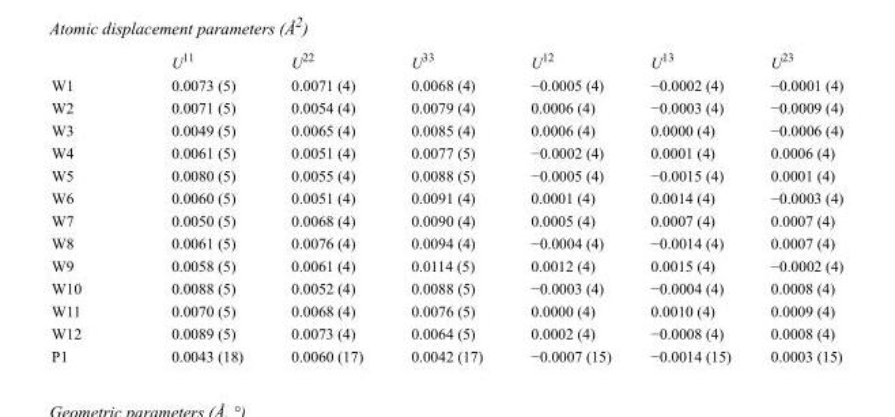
<table><thead><tr><td></td><td>U<sup>11</sup></td><td>U<sup>22</sup></td><td>U<sup>33</sup></td><td>U<sup>12</sup></td><td>U<sup>13</sup></td><td>U<sup>23</sup></td></tr></thead><tbody><tr><td>W1</td><td>0.0073 (5)</td><td>0.0071 (4)</td><td>0.0068 (4)</td><td>−0.0005 (4)</td><td>−0.0002 (4)</td><td>−0.0001 (4)</td></tr><tr><td>W2</td><td>0.0071 (5)</td><td>0.0054 (4)</td><td>0.0079 (4)</td><td>0.0006 (4)</td><td>−0.0003 (4)</td><td>−0.0009 (4)</td></tr><tr><td>W3</td><td>0.0049 (5)</td><td>0.0065 (4)</td><td>0.0085 (4)</td><td>0.0006 (4)</td><td>0.0000 (4)</td><td>−0.0006 (4)</td></tr><tr><td>W4</td><td>0.0061 (5)</td><td>0.0051 (4)</td><td>0.0077 (5)</td><td>−0.0002 (4)</td><td>0.0001 (4)</td><td>0.0006 (4)</td></tr><tr><td>W5</td><td>0.0080 (5)</td><td>0.0055 (4)</td><td>0.0088 (5)</td><td>−0.0005 (4)</td><td>−0.0015 (4)</td><td>0.0001 (4)</td></tr><tr><td>W6</td><td>0.0060 (5)</td><td>0.0051 (4)</td><td>0.0091 (4)</td><td>0.0001 (4)</td><td>0.0014 (4)</td><td>−0.0003 (4)</td></tr><tr><td>W7</td><td>0.0050 (5)</td><td>0.0068 (4)</td><td>0.0090 (4)</td><td>0.0005 (4)</td><td>0.0007 (4)</td><td>0.0007 (4)</td></tr><tr><td>W8</td><td>0.0061 (5)</td><td>0.0076 (4)</td><td>0.0094 (4)</td><td>−0.0004 (4)</td><td>−0.0014 (4)</td><td>0.0007 (4)</td></tr><tr><td>W9</td><td>0.0058 (5)</td><td>0.0061 (4)</td><td>0.0114 (5)</td><td>0.0012 (4)</td><td>0.0015 (4)</td><td>−0.0002 (4)</td></tr><tr><td>W10</td><td>0.0088 (5)</td><td>0.0052 (4)</td><td>0.0088 (5)</td><td>−0.0003 (4)</td><td>−0.0004 (4)</td><td>0.0008 (4)</td></tr><tr><td>W11</td><td>0.0070 (5)</td><td>0.0068 (4)</td><td>0.0076 (5)</td><td>0.0000 (4)</td><td>0.0010 (4)</td><td>0.0009 (4)</td></tr><tr><td>W12</td><td>0.0089 (5)</td><td>0.0073 (4)</td><td>0.0064 (5)</td><td>0.0002 (4)</td><td>−0.0008 (4)</td><td>0.0008 (4)</td></tr><tr><td>P1</td><td>0.0043 (18)</td><td>0.0060 (17)</td><td>0.0042 (17)</td><td>−0.0007 (15)</td><td>−0.0014 (15)</td><td>0.0003 (15)</td></tr></tbody></table>